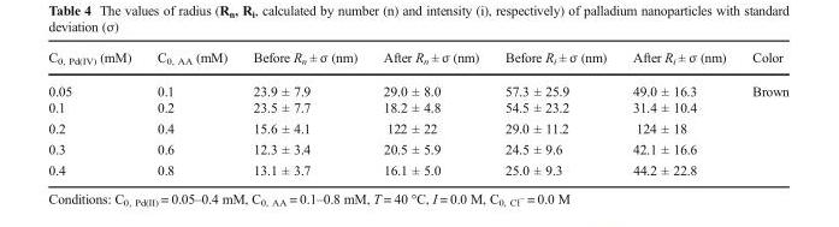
<table><thead><tr><td>C<sub>0, Pd(IV)</sub> (mM)</td><td>C<sub>0, AA</sub> (mM)</td><td>Before R<sub>n</sub> ± σ (nm)</td><td>After R<sub>n</sub> ± σ (nm)</td><td>Before R<sub>i</sub> ± σ (nm)</td><td>After R<sub>i</sub> ± σ (nm)</td><td>Color</td></tr></thead><tbody><tr><td>0.05</td><td>0.1</td><td>23.9 ± 7.9</td><td>29.0 ± 8.0</td><td>57.3 ± 25.9</td><td>49.0 ± 16.3</td><td rowspan="5">Brown</td></tr><tr><td>0.1</td><td>0.2</td><td>23.5 ± 7.7</td><td>18.2 ± 4.8</td><td>54.5 ± 23.2</td><td>31.4 ± 10.4</td></tr><tr><td>0.2</td><td>0.4</td><td>15.6 ± 4.1</td><td>122 ± 22</td><td>29.0 ± 11.2</td><td>124 ± 18</td></tr><tr><td>0.3</td><td>0.6</td><td>12.3 ± 3.4</td><td>20.5 ± 5.9</td><td>24.5 ± 9.6</td><td>42.1 ± 16.6</td></tr><tr><td>0.4</td><td>0.8</td><td>13.1 ± 3.7</td><td>16.1 ± 5.0</td><td>25.0 ± 9.3</td><td>44.2 ± 22.8</td></tr></tbody></table>